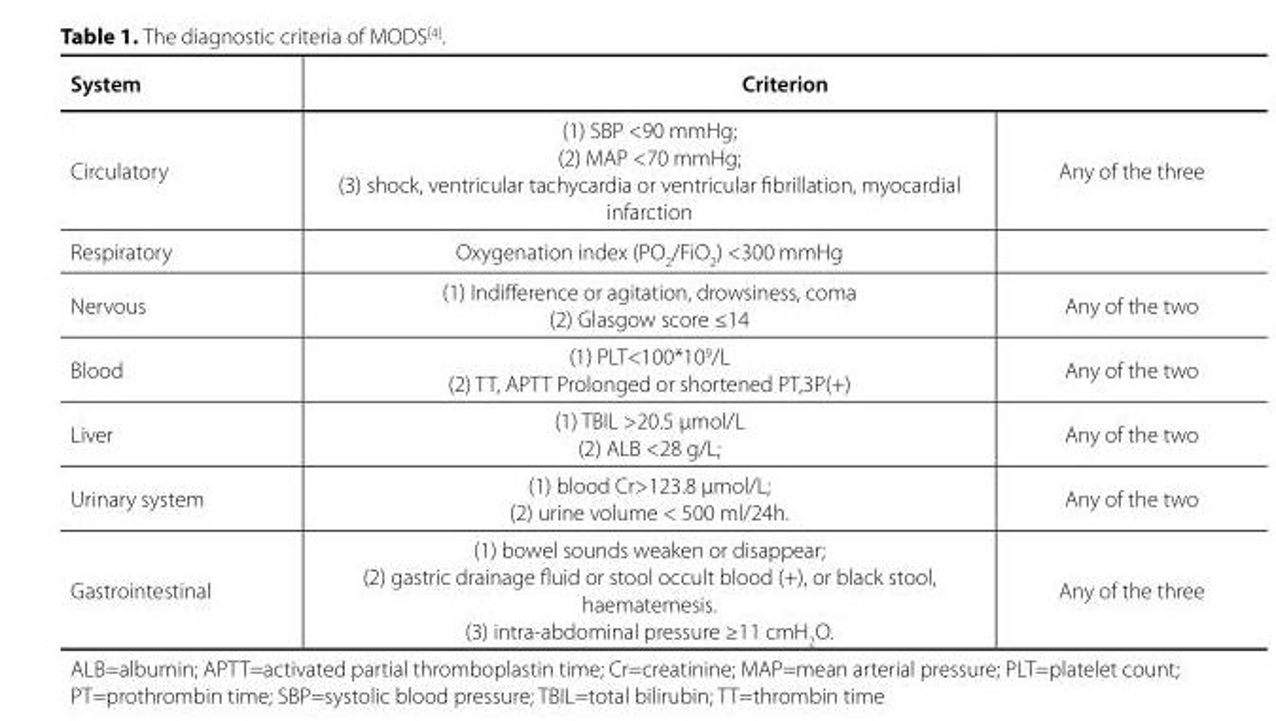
<table><thead><tr><td rowspan="2">System Circulatory</td><td colspan="2">Criterion</td></tr><tr><td>(1) SBP &lt;90 mmHg; (2) MAP &lt;70 mmHg; (3) shock, ventricular tachycardia or ventricular fibrillation, myocardial infarction</td><td>Any of the three</td></tr></thead><tbody><tr><td>Respiratory</td><td>Oxygenation index (PO2/FiO2) &lt;300 mmHg</td><td></td></tr><tr><td>Nervous</td><td>(1) Indifference or agitation, drowsiness, coma (2) Glasgow score ≤14</td><td>Any of the two</td></tr><tr><td>Blood</td><td>(1) PLT&lt;100*10<sup>9</sup>/L (2) TT, APTT Prolonged or shortened PT,3P(+)</td><td>Any of the two</td></tr><tr><td>Liver</td><td>(1) TBIL &gt;20.5 µmol/L (2) ALB &lt;28 g/L;</td><td>Any of the two</td></tr><tr><td>Urinary system</td><td>(1) blood Cr&gt;123.8 µmol/L; (2) urine volume &lt; 500 ml/24h.</td><td>Any of the two</td></tr><tr><td>Gastrointestinal</td><td>(1) bowel sounds weaken or disappear; (2) gastric drainage fluid or stool occult blood (+), or black stool, haematemesis. (3) intra-abdominal pressure ≥11 cmH<sub>2</sub>O.</td><td>Any of the three</td></tr></tbody></table>